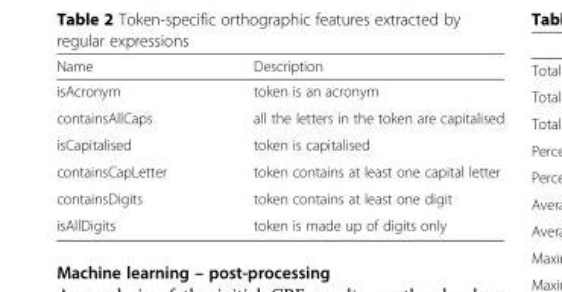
<table><thead><tr><td>Name</td><td>Description</td></tr></thead><tbody><tr><td>isAcronym</td><td>token is an acronym</td></tr><tr><td>containsAllCaps</td><td>all the letters in the token are capitalised</td></tr><tr><td>isCapitalised</td><td>token is capitalised</td></tr><tr><td>containsCapLetter</td><td>token contains at least one capital letter</td></tr><tr><td>containsDigits</td><td>token contains at least one digit</td></tr><tr><td>isAllDigits</td><td>token is made up of digits only</td></tr></tbody></table>